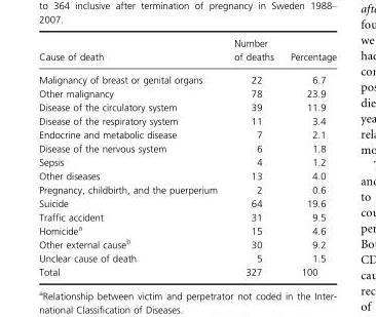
<table><thead><tr><td>Cause of death</td><td>Number of deaths</td><td>Percentage</td></tr></thead><tbody><tr><td>Malignancy of breast or genital organs</td><td>22</td><td>6.7</td></tr><tr><td>Other malignancy</td><td>78</td><td>23.9</td></tr><tr><td>Disease of the circulatory system</td><td>39</td><td>11.9</td></tr><tr><td>Disease of the respiratory system</td><td>11</td><td>3.4</td></tr><tr><td>Endocrine and metabolic disease</td><td>7</td><td>2.1</td></tr><tr><td>Disease of the nervous system</td><td>6</td><td>1.8</td></tr><tr><td>Sepsis</td><td>4</td><td>1.2</td></tr><tr><td>Other diseases</td><td>13</td><td>4.0</td></tr><tr><td>Pregnancy, childbirth, and the puerperium</td><td>2</td><td>0.6</td></tr><tr><td>Suicide</td><td>64</td><td>19.6</td></tr><tr><td>Traffic accident</td><td>31</td><td>9.5</td></tr><tr><td>Homicide<sup>a</sup></td><td>15</td><td>4.6</td></tr><tr><td>Other external cause<sup>b</sup></td><td>30</td><td>9.2</td></tr><tr><td>Unclear cause of death</td><td>5</td><td>1.5</td></tr><tr><td>Total</td><td>327</td><td>100</td></tr></tbody></table>